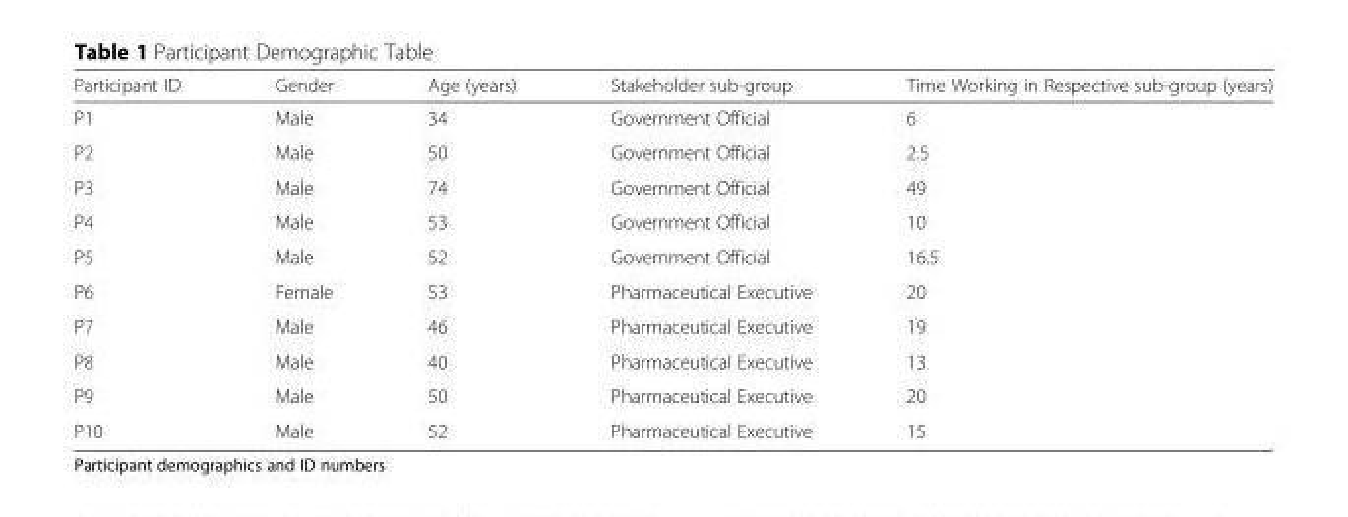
<table><thead><tr><td>Participant ID</td><td>Gender</td><td>Age (years)</td><td>Stakeholder sub-group</td><td>Time Working in Respective sub-group (years)</td></tr></thead><tbody><tr><td>P1</td><td>Male</td><td>34</td><td>Government Official</td><td>6</td></tr><tr><td>P2</td><td>Male</td><td>50</td><td>Government Official</td><td>2.5</td></tr><tr><td>P3</td><td>Male</td><td>74</td><td>Government Official</td><td>49</td></tr><tr><td>P4</td><td>Male</td><td>53</td><td>Government Official</td><td>10</td></tr><tr><td>P5</td><td>Male</td><td>52</td><td>Government Official</td><td>16.5</td></tr><tr><td>P6</td><td>Female</td><td>53</td><td>Pharmaceutical Executive</td><td>20</td></tr><tr><td>P7</td><td>Male</td><td>46</td><td>Pharmaceutical Executive</td><td>19</td></tr><tr><td>P8</td><td>Male</td><td>40</td><td>Pharmaceutical Executive</td><td>13</td></tr><tr><td>P9</td><td>Male</td><td>50</td><td>Pharmaceutical Executive</td><td>20</td></tr><tr><td>P10</td><td>Male</td><td>52</td><td>Pharmaceutical Executive</td><td>15</td></tr></tbody></table>